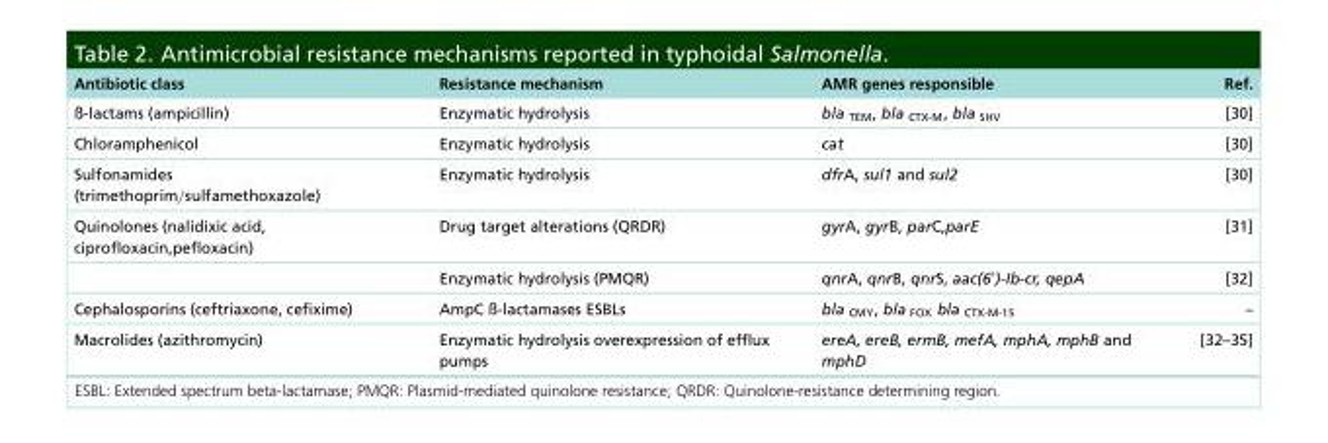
<table><thead><tr><td>Antibiotic class</td><td>Resistance mechanism</td><td>AMR genes responsible</td><td>Ref.</td></tr></thead><tbody><tr><td>ß-lactams (ampicillin)</td><td>Enzymatic hydrolysis</td><td>bla <sub>TEM</sub>, bla <sub>CTX-M</sub>, bla <sub>SHV</sub></td><td>[30]</td></tr><tr><td>Chloramphenicol</td><td>Enzymatic hydrolysis</td><td>cat</td><td>[30]</td></tr><tr><td>Sulfonamides (trimethoprim/sulfamethoxazole)</td><td>Enzymatic hydrolysis</td><td>dfrA, sul1 and sul2</td><td>[30]</td></tr><tr><td rowspan="2">Quinolones (nalidixic acid, ciprofloxacin,pefloxacin)</td><td>Drug target alterations (QRDR)</td><td>gyrA, gyrB, parC,parE</td><td>[31]</td></tr><tr><td>Enzymatic hydrolysis (PMQR)</td><td>qnrA, qnrB, qnrS, aac(6′)-Ib-cr, qepA</td><td>[32]</td></tr><tr><td>Cephalosporins (ceftriaxone, cefixime)</td><td>AmpC ß-lactamases ESBLs</td><td>bla <sub>CMY</sub>, bla <sub>FOX</sub> bla <sub>CTX-M-15</sub></td><td>–</td></tr><tr><td>Macrolides (azithromycin)</td><td>Enzymatic hydrolysis overexpression of efflux pumps</td><td>ereA, ereB, ermB, mefA, mphA, mphB and mphD</td><td>[32–35]</td></tr></tbody></table>